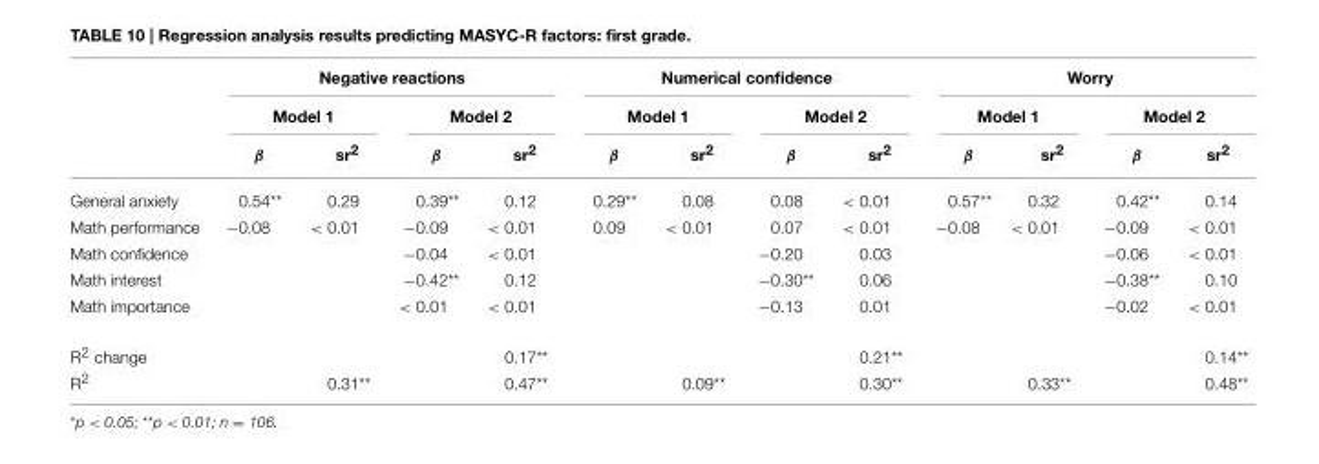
<table><thead><tr><td rowspan="3"></td><td colspan="4">Negative reactions</td><td colspan="4">Numerical confidence</td><td colspan="4">Worry</td></tr><tr><td colspan="2">Model 1</td><td colspan="2">Model 2</td><td colspan="2">Model 1</td><td colspan="2">Model 2</td><td colspan="2">Model 1</td><td colspan="2">Model 2</td></tr><tr><td>β</td><td>sr<sup>2</sup></td><td>β</td><td>sr<sup>2</sup></td><td>β</td><td>sr<sup>2</sup></td><td>β</td><td>sr<sup>2</sup></td><td>β</td><td>sr<sup>2</sup></td><td>β</td><td>sr<sup>2</sup></td></tr></thead><tbody><tr><td>General anxiety</td><td>0.54**</td><td>0.29</td><td>0.39**</td><td>0.12</td><td>0.29**</td><td>0.08</td><td>0.08</td><td>&lt; 0.01</td><td>0.57**</td><td>0.32</td><td>0.42**</td><td>0.14</td></tr><tr><td>Math performance</td><td>−0.08</td><td>&lt; 0.01</td><td>−0.09</td><td>&lt; 0.01</td><td>0.09</td><td>&lt; 0.01</td><td>0.07</td><td>&lt; 0.01</td><td>−0.08</td><td>&lt; 0.01</td><td>−0.09</td><td>&lt; 0.01</td></tr><tr><td>Math confidence</td><td></td><td></td><td>−0.04</td><td>&lt; 0.01</td><td></td><td></td><td>−0.20</td><td>0.03</td><td></td><td></td><td>−0.06</td><td>&lt; 0.01</td></tr><tr><td>Math interest</td><td></td><td></td><td>−0.42**</td><td>0.12</td><td></td><td></td><td>−0.30**</td><td>0.06</td><td></td><td></td><td>−0.38**</td><td>0.10</td></tr><tr><td>Math importance</td><td></td><td></td><td>&lt; 0.01</td><td>&lt; 0.01</td><td></td><td></td><td>−0.13</td><td>0.01</td><td></td><td></td><td>−0.02</td><td>&lt; 0.01</td></tr><tr><td>R<sup>2</sup> change</td><td></td><td></td><td></td><td>0.17**</td><td></td><td></td><td></td><td>0.21**</td><td></td><td></td><td></td><td>0.14**</td></tr><tr><td>R<sup>2</sup></td><td></td><td>0.31**</td><td></td><td>0.47**</td><td></td><td>0.09**</td><td></td><td>0.30**</td><td></td><td>0.33**</td><td></td><td>0.48**</td></tr></tbody></table>